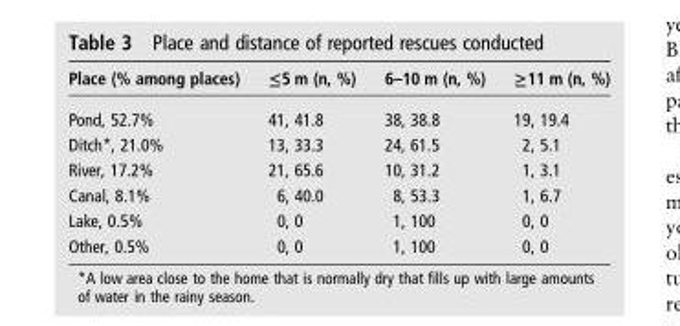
<table><thead><tr><td>Place (% among places)</td><td>≤5 m (n, %)</td><td>6–10 m (n, %)</td><td>≥11 m (n, %)</td></tr></thead><tbody><tr><td>Pond, 52.7%</td><td>41, 41.8</td><td>38, 38.8</td><td>19, 19.4</td></tr><tr><td>Ditch*, 21.0%</td><td>13, 33.3</td><td>24, 61.5</td><td>2, 5.1</td></tr><tr><td>River, 17.2%</td><td>21, 65.6</td><td>10, 31.2</td><td>1, 3.1</td></tr><tr><td>Canal, 8.1%</td><td>6, 40.0</td><td>8, 53.3</td><td>1, 6.7</td></tr><tr><td>Lake, 0.5%</td><td>0, 0</td><td>1, 100</td><td>0, 0</td></tr><tr><td>Other, 0.5%</td><td>0, 0</td><td>1, 100</td><td>0, 0</td></tr></tbody></table>